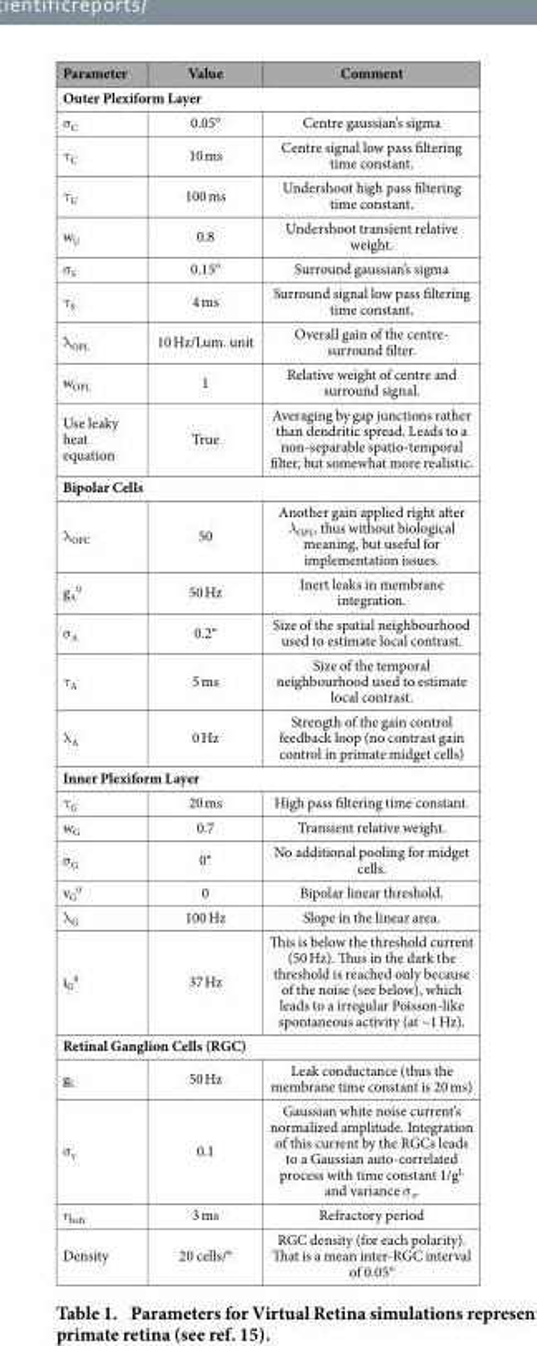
<table><thead><tr><td>Parameter</td><td>Value</td><td>Comment</td></tr></thead><tbody><tr><td colspan="3">Outer Plexiform Layer</td></tr><tr><td>σ<sub>C</sub></td><td>0.05°</td><td>Centre gaussian’s sigma</td></tr><tr><td>τ<sub>C</sub></td><td>10 ms</td><td>Centre signal low pass filtering time constant.</td></tr><tr><td>τ<sub>U</sub></td><td>100 ms</td><td>Undershoot high pass filtering time constant.</td></tr><tr><td>w<sub>U</sub></td><td>0.8</td><td>Undershoot transient relative weight.</td></tr><tr><td>σ<sub>S</sub></td><td>0.15°</td><td>Surround gaussian’s sigma</td></tr><tr><td>τ<sub>S</sub></td><td>4 ms</td><td>Surround signal low pass filtering time constant.</td></tr><tr><td>λ<sub>OPL</sub></td><td>10 Hz/Lum. unit</td><td>Overall gain of the centre- surround filter.</td></tr><tr><td>w<sub>OPL</sub></td><td>1</td><td>Relative weight of centre and surround signal.</td></tr><tr><td>Use leaky heat equation</td><td>True</td><td>Averaging by gap junctions rather than dendritic spread. Leads to a non-separable spatio-temporal filter, but somewhat more realistic.</td></tr><tr><td colspan="3">Bipolar Cells</td></tr><tr><td>λ<sub>OPL’</sub></td><td>50</td><td>Another gain applied right after λ<sub>OPL</sub>, thus without biological meaning, but useful for implementation issues.</td></tr><tr><td>g<sub>A</sub> <sup>0</sup></td><td>50 Hz</td><td>Inert leaks in membrane integration.</td></tr><tr><td>σ<sub>A</sub></td><td>0.2°</td><td>Size of the spatial neighbourhood used to estimate local contrast.</td></tr><tr><td>τ<sub>A</sub></td><td>5 ms</td><td>Size of the temporal neighbourhood used to estimate local contrast.</td></tr><tr><td>λ<sub>A</sub></td><td>0 Hz</td><td>Strength of the gain control feedback loop (no contrast gain control in primate midget cells)</td></tr><tr><td colspan="3">Inner Plexiform Layer</td></tr><tr><td>τ<sub>G</sub></td><td>20 ms</td><td>High pass filtering time constant.</td></tr><tr><td>w<sub>G</sub></td><td>0.7</td><td>Transient relative weight.</td></tr><tr><td>σ<sub>G</sub></td><td>0°</td><td>No additional pooling for midget cells.</td></tr><tr><td>v<sub>G</sub> <sup>0</sup></td><td>0</td><td>Bipolar linear threshold.</td></tr><tr><td>λ<sub>G</sub></td><td>100 Hz</td><td>Slope in the linear area.</td></tr><tr><td>i<sub>G</sub> <sup>0</sup></td><td>37 Hz</td><td>This is below the threshold current (50 Hz). Thus in the dark the threshold is reached only because of the noise (see below), which leads to a irregular Poisson-like spontaneous activity (at ~1 Hz).</td></tr><tr><td colspan="3">Retinal Ganglion Cells (RGC)</td></tr><tr><td>g<sub>L</sub></td><td>50 Hz</td><td>Leak conductance (thus the membrane time constant is 20 ms)</td></tr><tr><td>σ<sub>v</sub></td><td>0.1</td><td>Gaussian white noise current’s normalized amplitude. Integration of this current by the RGCs leads to a Gaussian auto-correlated process with time constant 1/g<sup>L</sup> and variance σ <sub>v</sub>.</td></tr><tr><td>η <sub>refr</sub></td><td>3 ms</td><td>Refractory period</td></tr><tr><td>Density</td><td>20 cells/°</td><td>RGC density (for each polarity). That is a mean inter-RGC interval of 0.05°</td></tr></tbody></table>